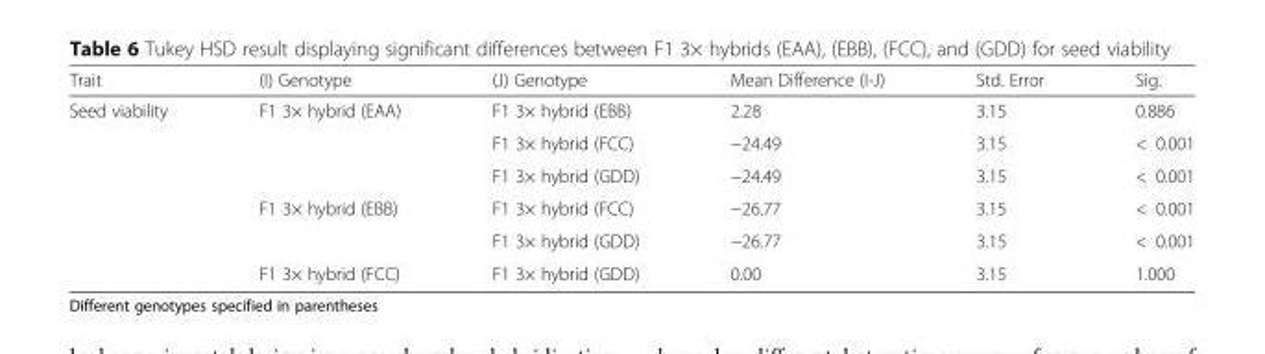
<table><thead><tr><td>Trait</td><td>(I) Genotype</td><td>(J) Genotype</td><td>Mean Difference (I-J)</td><td>Std. Error</td><td>Sig.</td></tr></thead><tbody><tr><td rowspan="6">Seed viability</td><td rowspan="3">F1 3× hybrid (EAA)</td><td>F1 3× hybrid (EBB)</td><td>2.28</td><td>3.15</td><td>0.886</td></tr><tr><td>F1 3× hybrid (FCC)</td><td>−24.49</td><td>3.15</td><td>&lt; 0.001</td></tr><tr><td>F1 3× hybrid (GDD)</td><td>−24.49</td><td>3.15</td><td>&lt; 0.001</td></tr><tr><td rowspan="2">F1 3× hybrid (EBB)</td><td>F1 3× hybrid (FCC)</td><td>−26.77</td><td>3.15</td><td>&lt; 0.001</td></tr><tr><td>F1 3× hybrid (GDD)</td><td>−26.77</td><td>3.15</td><td>&lt; 0.001</td></tr><tr><td>F1 3× hybrid (FCC)</td><td>F1 3× hybrid (GDD)</td><td>0.00</td><td>3.15</td><td>1.000</td></tr></tbody></table>